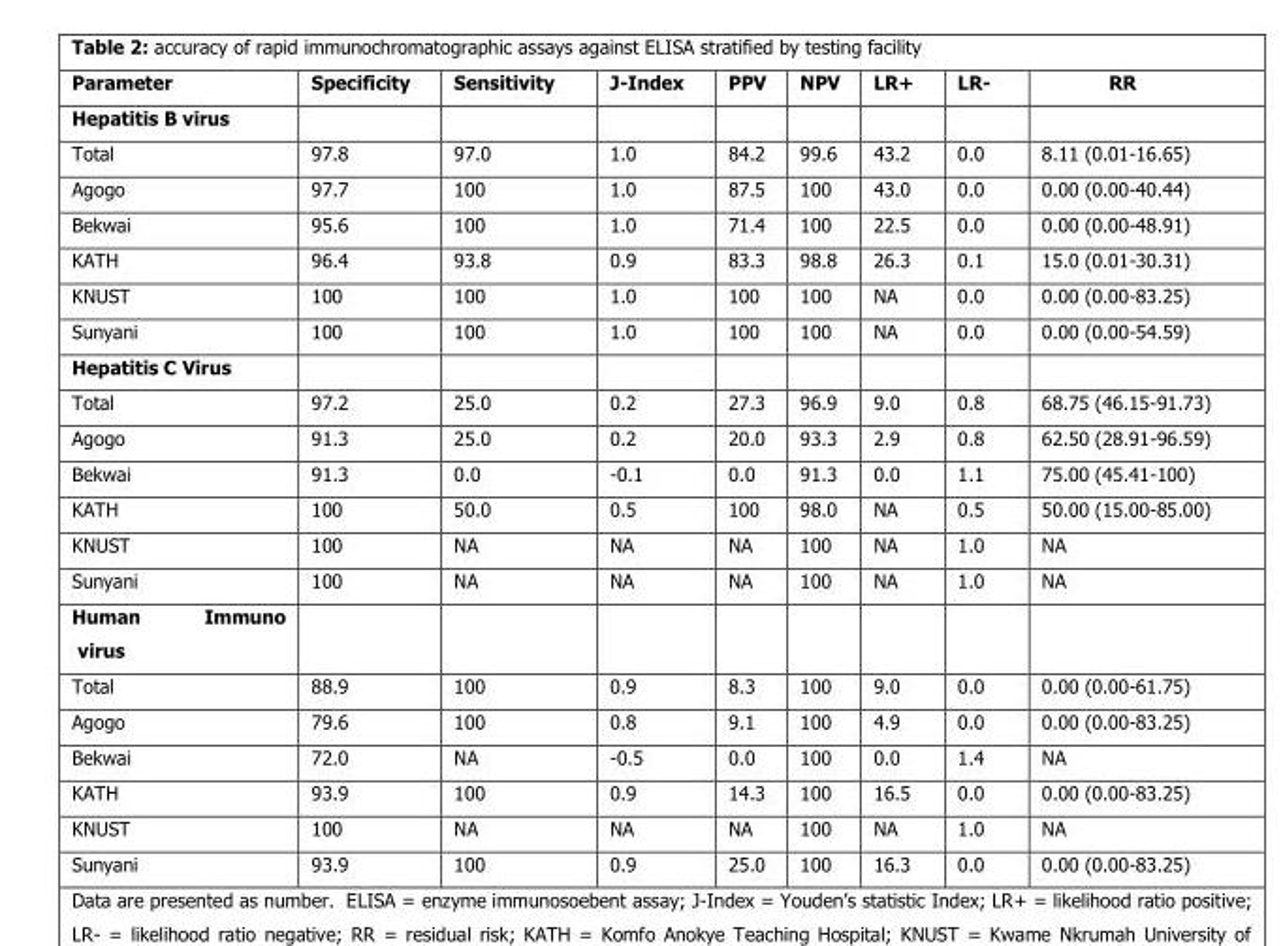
<table><thead><tr><td>Parameter</td><td>Specificity</td><td>Sensitivity</td><td>J-Index</td><td>PPV</td><td>NPV</td><td>LR+</td><td>LR-</td><td>RR</td></tr></thead><tbody><tr><td colspan="9">Hepatitis B virus</td></tr><tr><td>Total</td><td>97.8</td><td>97.0</td><td>1.0</td><td>84.2</td><td>99.6</td><td>43.2</td><td>0.0</td><td>8.11 (0.01-16.65)</td></tr><tr><td>Agogo</td><td>97.7</td><td>100</td><td>1.0</td><td>87.5</td><td>100</td><td>43.0</td><td>0.0</td><td>0.00 (0.00-40.44)</td></tr><tr><td>Bekwai</td><td>95.6</td><td>100</td><td>1.0</td><td>71.4</td><td>100</td><td>22.5</td><td>0.0</td><td>0.00 (0.00-48.91)</td></tr><tr><td>KATH</td><td>96.4</td><td>93.8</td><td>0.9</td><td>83.3</td><td>98.8</td><td>26.3</td><td>0.1</td><td>15.0 (0.01-30.31)</td></tr><tr><td>KNUST</td><td>100</td><td>100</td><td>1.0</td><td>100</td><td>100</td><td>NA</td><td>0.0</td><td>0.00 (0.00-83.25)</td></tr><tr><td>Sunyani</td><td>100</td><td>100</td><td>1.0</td><td>100</td><td>100</td><td>NA</td><td>0.0</td><td>0.00 (0.00-54.59)</td></tr><tr><td colspan="9">Hepatitis C Virus</td></tr><tr><td>Total</td><td>97.2</td><td>25.0</td><td>0.2</td><td>27.3</td><td>96.9</td><td>9.0</td><td>0.8</td><td>68.75 (46.15-91.73)</td></tr><tr><td>Agogo</td><td>91.3</td><td>25.0</td><td>0.2</td><td>20.0</td><td>93.3</td><td>2.9</td><td>0.8</td><td>62.50 (28.91-96.59)</td></tr><tr><td>Bekwai</td><td>91.3</td><td>0.0</td><td>-0.1</td><td>0.0</td><td>91.3</td><td>0.0</td><td>1.1</td><td>75.00 (45.41-100)</td></tr><tr><td>KATH</td><td>100</td><td>50.0</td><td>0.5</td><td>100</td><td>98.0</td><td>NA</td><td>0.5</td><td>50.00 (15.00-85.00)</td></tr><tr><td>KNUST</td><td>100</td><td>NA</td><td>NA</td><td>NA</td><td>100</td><td>NA</td><td>1.0</td><td>NA</td></tr><tr><td>Sunyani</td><td>100</td><td>NA</td><td>NA</td><td>NA</td><td>100</td><td>NA</td><td>1.0</td><td>NA</td></tr><tr><td colspan="9">Human Immuno virus</td></tr><tr><td>Total</td><td>88.9</td><td>100</td><td>0.9</td><td>8.3</td><td>100</td><td>9.0</td><td>0.0</td><td>0.00 (0.00-61.75)</td></tr><tr><td>Agogo</td><td>79.6</td><td>100</td><td>0.8</td><td>9.1</td><td>100</td><td>4.9</td><td>0.0</td><td>0.00 (0.00-83.25)</td></tr><tr><td>Bekwai</td><td>72.0</td><td>NA</td><td>-0.5</td><td>0.0</td><td>100</td><td>0.0</td><td>1.4</td><td>NA</td></tr><tr><td>KATH</td><td>93.9</td><td>100</td><td>0.9</td><td>14.3</td><td>100</td><td>16.5</td><td>0.0</td><td>0.00 (0.00-83.25)</td></tr><tr><td>KNUST</td><td>100</td><td>NA</td><td>NA</td><td>NA</td><td>100</td><td>NA</td><td>1.0</td><td>NA</td></tr><tr><td>Sunyani</td><td>93.9</td><td>100</td><td>0.9</td><td>25.0</td><td>100</td><td>16.3</td><td>0.0</td><td>0.00 (0.00-83.25)</td></tr></tbody></table>